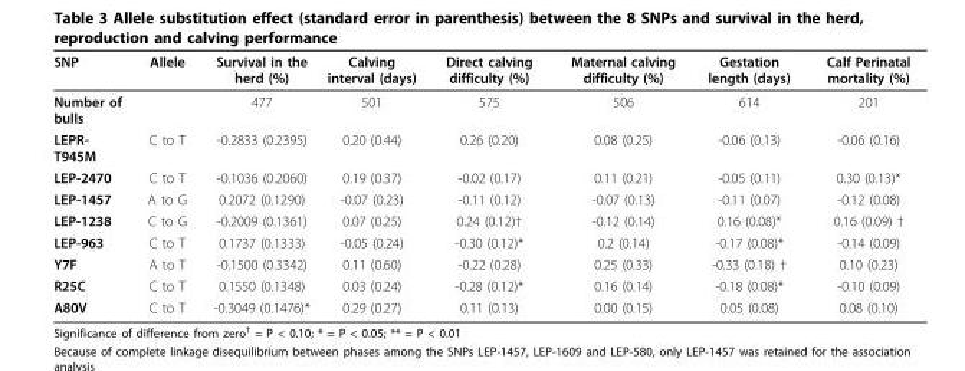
<table><thead><tr><td>SNP</td><td>Allele</td><td>Survival in the herd (%)</td><td>Calving interval (days)</td><td>Direct calving difficulty (%)</td><td>Maternal calving difficulty (%)</td><td>Gestation length (days)</td><td>Calf Perinatal mortality (%)</td></tr></thead><tbody><tr><td>Number of bulls</td><td></td><td>477</td><td>501</td><td>575</td><td>506</td><td>614</td><td>201</td></tr><tr><td>LEPR- T945M</td><td>C to T</td><td>-0.2833 (0.2395)</td><td>0.20 (0.44)</td><td>0.26 (0.20)</td><td>0.08 (0.25)</td><td>-0.06 (0.13)</td><td>-0.06 (0.16)</td></tr><tr><td>LEP-2470</td><td>C to T</td><td>-0.1036 (0.2060)</td><td>0.19 (0.37)</td><td>-0.02 (0.17)</td><td>0.11 (0.21)</td><td>-0.05 (0.11)</td><td>0.30 (0.13)*</td></tr><tr><td>LEP-1457</td><td>A to G</td><td>0.2072 (0.1290)</td><td>-0.07 (0.23)</td><td>-0.11 (0.12)</td><td>-0.07 (0.13)</td><td>-0.11 (0.07)</td><td>-0.12 (0.08)</td></tr><tr><td>LEP-1238</td><td>C to G</td><td>-0.2009 (0.1361)</td><td>0.07 (0.25)</td><td>0.24 (0.12)†</td><td>-0.12 (0.14)</td><td>0.16 (0.08)*</td><td>0.16 (0.09) †</td></tr><tr><td>LEP-963</td><td>C to T</td><td>0.1737 (0.1333)</td><td>-0.05 (0.24)</td><td>-0.30 (0.12)*</td><td>0.2 (0.14)</td><td>-0.17 (0.08)*</td><td>-0.14 (0.09)</td></tr><tr><td>Y7F</td><td>A to T</td><td>-0.1500 (0.3342)</td><td>0.11 (0.60)</td><td>-0.22 (0.28)</td><td>0.25 (0.33)</td><td>-0.33 (0.18) †</td><td>0.10 (0.23)</td></tr><tr><td>R25C</td><td>C to T</td><td>0.1550 (0.1348)</td><td>0.03 (0.24)</td><td>-0.28 (0.12)*</td><td>0.16 (0.14)</td><td>-0.18 (0.08)*</td><td>-0.10 (0.09)</td></tr><tr><td>A80V</td><td>C to T</td><td>-0.3049 (0.1476)*</td><td>0.29 (0.27)</td><td>0.11 (0.13)</td><td>0.00 (0.15)</td><td>0.05 (0.08)</td><td>0.08 (0.10)</td></tr></tbody></table>